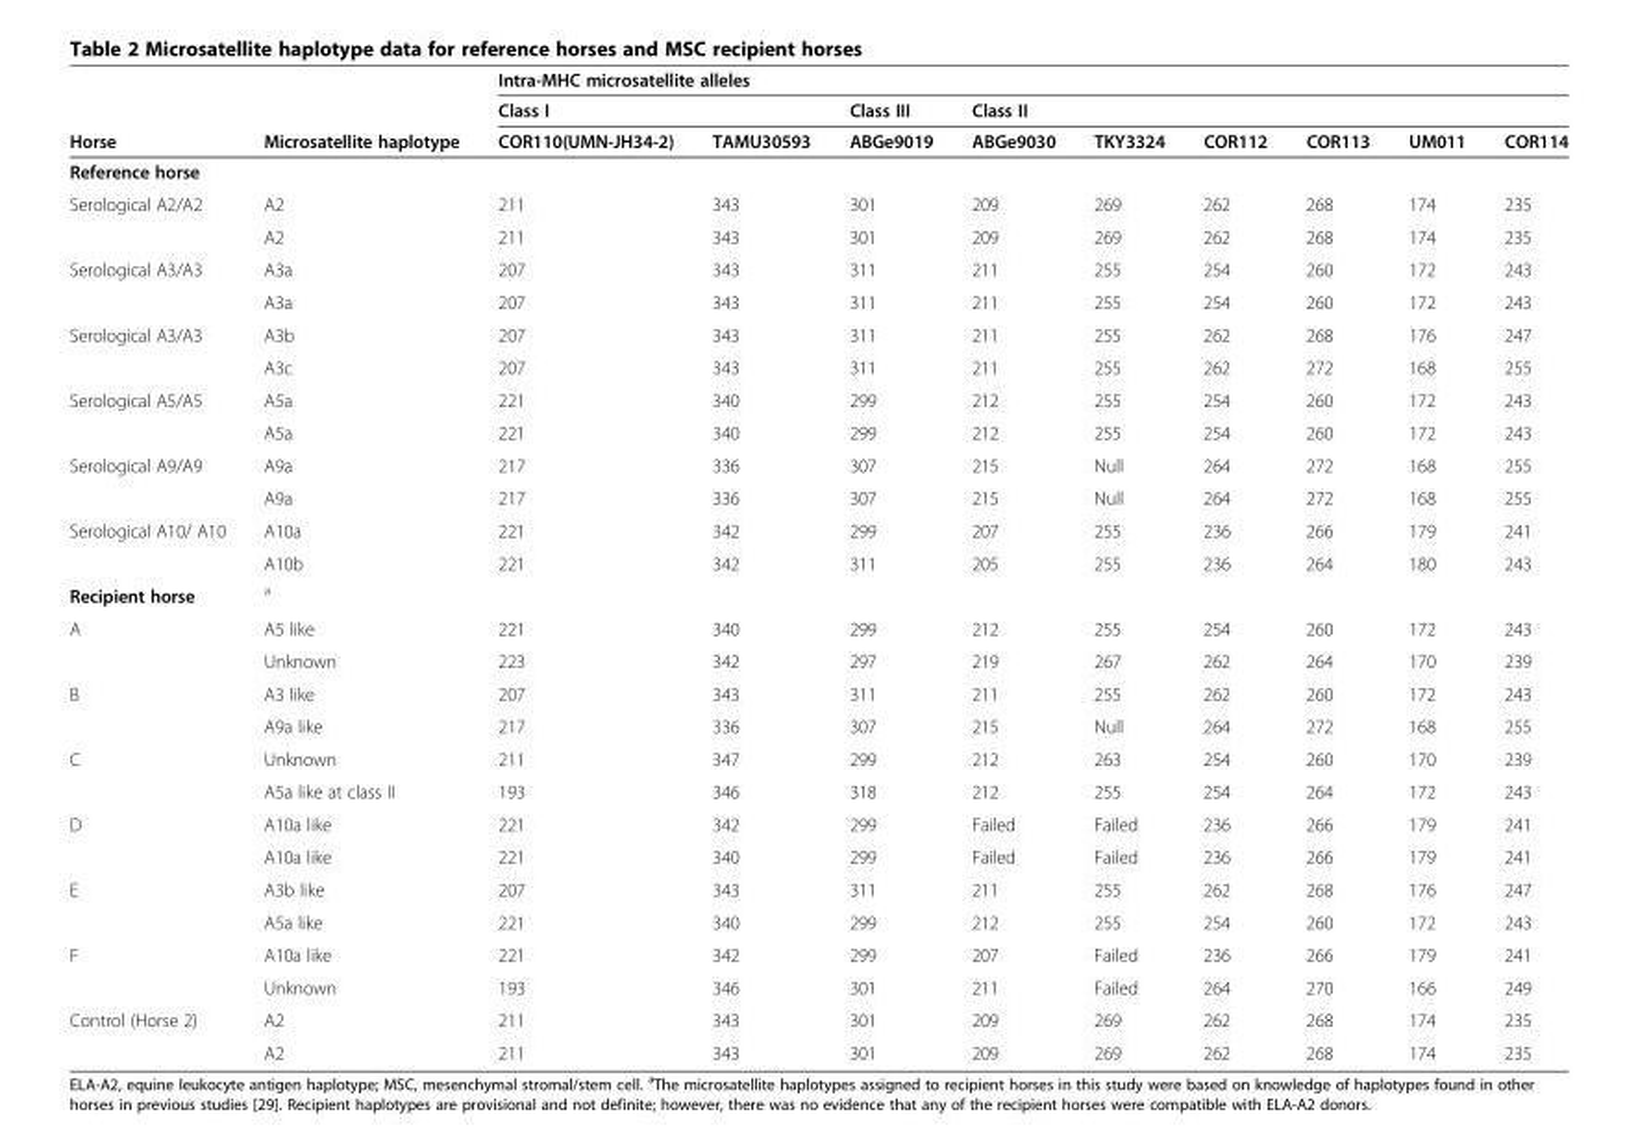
<table><thead><tr><td rowspan="3">Horse</td><td rowspan="3">Microsatellite haplotype</td><td colspan="9">Intra-MHC microsatellite alleles</td></tr><tr><td colspan="2">Class I</td><td rowspan="2">Class III ABGe9019</td><td colspan="6">Class II</td></tr><tr><td>COR110(UMN-JH34-2)</td><td>TAMU30593</td><td>ABGe9030</td><td>TKY3324</td><td>COR112</td><td>COR113</td><td>UM011</td><td>COR114</td></tr></thead><tbody><tr><td colspan="11">Reference horse</td></tr><tr><td rowspan="2">Serological A2/A2</td><td>A2</td><td>211</td><td>343</td><td>301</td><td>209</td><td>269</td><td>262</td><td>268</td><td>174</td><td>235</td></tr><tr><td>A2</td><td>211</td><td>343</td><td>301</td><td>209</td><td>269</td><td>262</td><td>268</td><td>174</td><td>235</td></tr><tr><td rowspan="2">Serological A3/A3</td><td>A3a</td><td>207</td><td>343</td><td>311</td><td>211</td><td>255</td><td>254</td><td>260</td><td>172</td><td>243</td></tr><tr><td>A3a</td><td>207</td><td>343</td><td>311</td><td>211</td><td>255</td><td>254</td><td>260</td><td>172</td><td>243</td></tr><tr><td rowspan="2">Serological A3/A3</td><td>A3b</td><td>207</td><td>343</td><td>311</td><td>211</td><td>255</td><td>262</td><td>268</td><td>176</td><td>247</td></tr><tr><td>A3c</td><td>207</td><td>343</td><td>311</td><td>211</td><td>255</td><td>262</td><td>272</td><td>168</td><td>255</td></tr><tr><td rowspan="2">Serological A5/A5</td><td>A5a</td><td>221</td><td>340</td><td>299</td><td>212</td><td>255</td><td>254</td><td>260</td><td>172</td><td>243</td></tr><tr><td>A5a</td><td>221</td><td>340</td><td>299</td><td>212</td><td>255</td><td>254</td><td>260</td><td>172</td><td>243</td></tr><tr><td rowspan="2">Serological A9/A9</td><td>A9a</td><td>217</td><td>336</td><td>307</td><td>215</td><td>Null</td><td>264</td><td>272</td><td>168</td><td>255</td></tr><tr><td>A9a</td><td>217</td><td>336</td><td>307</td><td>215</td><td>Null</td><td>264</td><td>272</td><td>168</td><td>255</td></tr><tr><td rowspan="2">Serological A10/ A10</td><td>A10a</td><td>221</td><td>342</td><td>299</td><td>207</td><td>255</td><td>236</td><td>266</td><td>179</td><td>241</td></tr><tr><td>A10b</td><td>221</td><td>342</td><td>311</td><td>205</td><td>255</td><td>236</td><td>264</td><td>180</td><td>243</td></tr><tr><td>Recipient horse</td><td><sup>a</sup></td><td></td><td></td><td></td><td></td><td></td><td></td><td></td><td></td><td></td></tr><tr><td rowspan="2">A</td><td>A5 like</td><td>221</td><td>340</td><td>299</td><td>212</td><td>255</td><td>254</td><td>260</td><td>172</td><td>243</td></tr><tr><td>Unknown</td><td>223</td><td>342</td><td>297</td><td>219</td><td>267</td><td>262</td><td>264</td><td>170</td><td>239</td></tr><tr><td rowspan="2">B</td><td>A3 like</td><td>207</td><td>343</td><td>311</td><td>211</td><td>255</td><td>262</td><td>260</td><td>172</td><td>243</td></tr><tr><td>A9a like</td><td>217</td><td>336</td><td>307</td><td>215</td><td>Null</td><td>264</td><td>272</td><td>168</td><td>255</td></tr><tr><td rowspan="2">C</td><td>Unknown</td><td>211</td><td>347</td><td>299</td><td>212</td><td>263</td><td>254</td><td>260</td><td>170</td><td>239</td></tr><tr><td>A5a like at class II</td><td>193</td><td>346</td><td>318</td><td>212</td><td>255</td><td>254</td><td>264</td><td>172</td><td>243</td></tr><tr><td rowspan="2">D</td><td>A10a like</td><td>221</td><td>342</td><td>299</td><td>Failed</td><td>Failed</td><td>236</td><td>266</td><td>179</td><td>241</td></tr><tr><td>A10a like</td><td>221</td><td>340</td><td>299</td><td>Failed</td><td>Failed</td><td>236</td><td>266</td><td>179</td><td>241</td></tr><tr><td rowspan="2">E</td><td>A3b like</td><td>207</td><td>343</td><td>311</td><td>211</td><td>255</td><td>262</td><td>268</td><td>176</td><td>247</td></tr><tr><td>A5a like</td><td>221</td><td>340</td><td>299</td><td>212</td><td>255</td><td>254</td><td>260</td><td>172</td><td>243</td></tr><tr><td rowspan="2">F</td><td>A10a like</td><td>221</td><td>342</td><td>299</td><td>207</td><td>Failed</td><td>236</td><td>266</td><td>179</td><td>241</td></tr><tr><td>Unknown</td><td>193</td><td>346</td><td>301</td><td>211</td><td>Failed</td><td>264</td><td>270</td><td>166</td><td>249</td></tr><tr><td rowspan="2">Control (Horse 2)</td><td>A2</td><td>211</td><td>343</td><td>301</td><td>209</td><td>269</td><td>262</td><td>268</td><td>174</td><td>235</td></tr><tr><td>A2</td><td>211</td><td>343</td><td>301</td><td>209</td><td>269</td><td>262</td><td>268</td><td>174</td><td>235</td></tr></tbody></table>